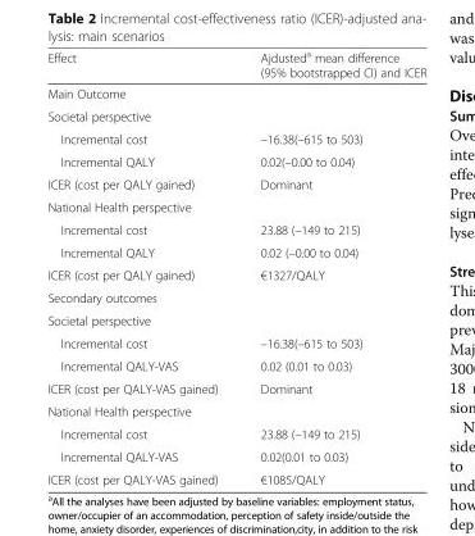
<table><thead><tr><td>Effect</td><td>Ajdusted<sup>a</sup> mean difference (95% bootstrapped CI) and ICER</td></tr></thead><tbody><tr><td colspan="2">Main Outcome</td></tr><tr><td colspan="2">Societal perspective</td></tr><tr><td>Incremental cost</td><td>–16.38(–615 to 503)</td></tr><tr><td>Incremental QALY</td><td>0.02(–0.00 to 0.04)</td></tr><tr><td>ICER (cost per QALY gained)</td><td>Dominant</td></tr><tr><td colspan="2">National Health perspective</td></tr><tr><td>Incremental cost</td><td>23.88 (–149 to 215)</td></tr><tr><td>Incremental QALY</td><td>0.02 (–0.00 to 0.04)</td></tr><tr><td>ICER (cost per QALY gained)</td><td>€1327/QALY</td></tr><tr><td colspan="2">Secondary outcomes</td></tr><tr><td colspan="2">Societal perspective</td></tr><tr><td>Incremental cost</td><td>–16.38(–615 to 503)</td></tr><tr><td>Incremental QALY-VAS</td><td>0.02 (0.01 to 0.03)</td></tr><tr><td>ICER (cost per QALY-VAS gained)</td><td>Dominant</td></tr><tr><td colspan="2">National Health perspective</td></tr><tr><td>Incremental cost</td><td>23.88 (–149 to 215)</td></tr><tr><td>Incremental QALY-VAS</td><td>0.02(0.01 to 0.03)</td></tr><tr><td>ICER (cost per QALY-VAS gained)</td><td>€1085/QALY</td></tr></tbody></table>